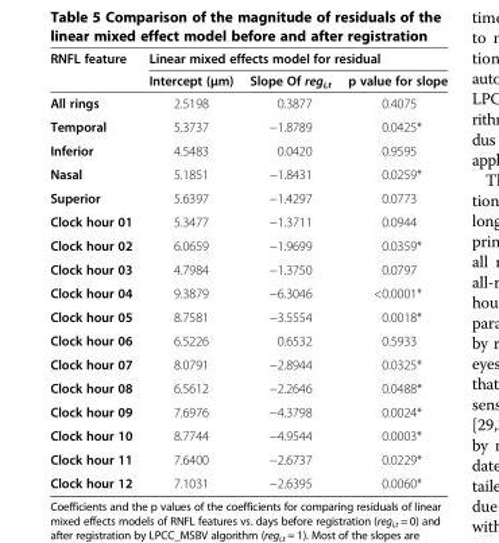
<table><thead><tr><td rowspan="2">RNFL feature</td><td colspan="3">Linear mixed effects model for residual</td></tr><tr><td>Intercept (μm)</td><td>Slope Of reg<sub>i,t</sub></td><td>p value for slope</td></tr></thead><tbody><tr><td>All rings</td><td>2.5198</td><td>0.3877</td><td>0.4075</td></tr><tr><td>Temporal</td><td>5.3737</td><td>−1.8789</td><td>0.0425*</td></tr><tr><td>Inferior</td><td>4.5483</td><td>0.0420</td><td>0.9595</td></tr><tr><td>Nasal</td><td>5.1851</td><td>−1.8431</td><td>0.0259*</td></tr><tr><td>Superior</td><td>5.6397</td><td>−1.4297</td><td>0.0773</td></tr><tr><td>Clock hour 01</td><td>5.3477</td><td>−1.3711</td><td>0.0944</td></tr><tr><td>Clock hour 02</td><td>6.0659</td><td>−1.9699</td><td>0.0359*</td></tr><tr><td>Clock hour 03</td><td>4.7984</td><td>−1.3750</td><td>0.0797</td></tr><tr><td>Clock hour 04</td><td>9.3879</td><td>−6.3046</td><td>&lt;0.0001*</td></tr><tr><td>Clock hour 05</td><td>8.7581</td><td>−3.5554</td><td>0.0018*</td></tr><tr><td>Clock hour 06</td><td>6.5226</td><td>0.6532</td><td>0.5933</td></tr><tr><td>Clock hour 07</td><td>8.0791</td><td>−2.8944</td><td>0.0325*</td></tr><tr><td>Clock hour 08</td><td>6.5612</td><td>−2.2646</td><td>0.0488*</td></tr><tr><td>Clock hour 09</td><td>7.6976</td><td>−4.3798</td><td>0.0024*</td></tr><tr><td>Clock hour 10</td><td>8.7744</td><td>−4.9544</td><td>0.0003*</td></tr><tr><td>Clock hour 11</td><td>7.6400</td><td>−2.6737</td><td>0.0229*</td></tr><tr><td>Clock hour 12</td><td>7.1031</td><td>−2.6395</td><td>0.0060*</td></tr></tbody></table>